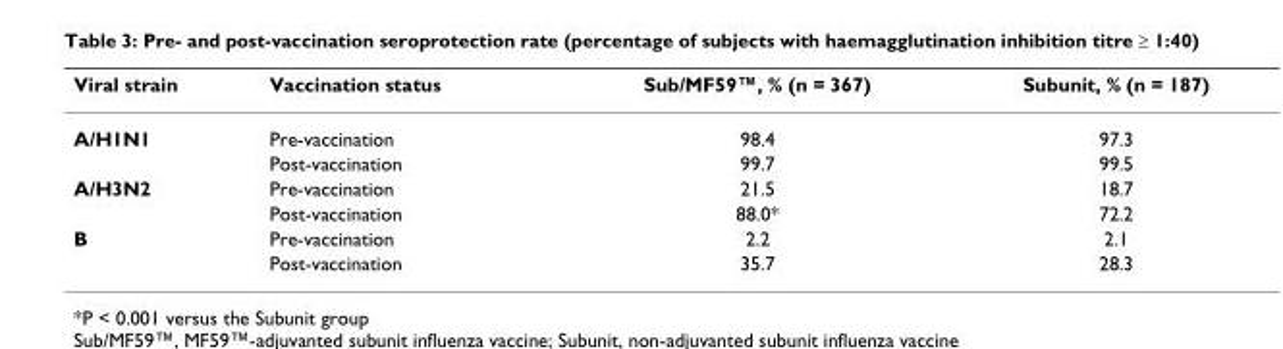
<table><thead><tr><td>Viral strain</td><td>Vaccination status</td><td>Sub/MF59™, % (n = 367)</td><td>Subunit, % (n = 187)</td></tr></thead><tbody><tr><td rowspan="2">A/H1N1</td><td>Pre-vaccination</td><td>98.4</td><td>97.3</td></tr><tr><td>Post-vaccination</td><td>99.7</td><td>99.5</td></tr><tr><td rowspan="2">A/H3N2</td><td>Pre-vaccination</td><td>21.5</td><td>18.7</td></tr><tr><td>Post-vaccination</td><td>88.0*</td><td>72.2</td></tr><tr><td rowspan="2">B</td><td>Pre-vaccination</td><td>2.2</td><td>2.1</td></tr><tr><td>Post-vaccination</td><td>35.7</td><td>28.3</td></tr></tbody></table>